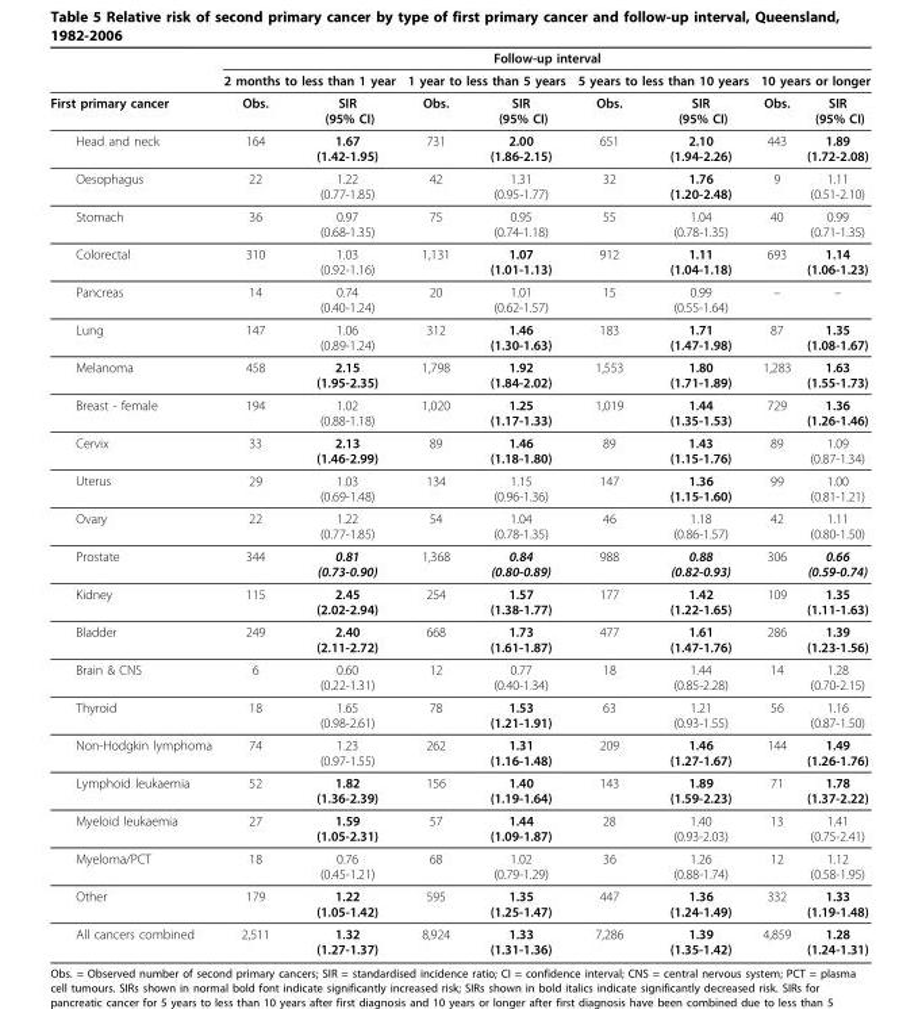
<table><thead><tr><td rowspan="3">First primary cancer</td><td colspan="8">Follow-up interval</td></tr><tr><td colspan="2">2 months to less than 1 year</td><td colspan="2">1 year to less than 5 years</td><td colspan="2">5 years to less than 10 years</td><td colspan="2">10 years or longer</td></tr><tr><td>Obs.</td><td>SIR (95% CI)</td><td>Obs.</td><td>SIR (95% CI)</td><td>Obs.</td><td>SIR (95% CI)</td><td>Obs.</td><td>SIR (95% CI)</td></tr></thead><tbody><tr><td>Head and neck</td><td>164</td><td>1.67 (1.42-1.95)</td><td>731</td><td>2.00 (1.86-2.15)</td><td>651</td><td>2.10 (1.94-2.26)</td><td>443</td><td>1.89 (1.72-2.08)</td></tr><tr><td>Oesophagus</td><td>22</td><td>1.22 (0.77-1.85)</td><td>42</td><td>1.31 (0.95-1.77)</td><td>32</td><td>1.76 (1.20-2.48)</td><td>9</td><td>1.11 (0.51-2.10)</td></tr><tr><td>Stomach</td><td>36</td><td>0.97 (0.68-1.35)</td><td>75</td><td>0.95 (0.74-1.18)</td><td>55</td><td>1.04 (0.78-1.35)</td><td>40</td><td>0.99 (0.71-1.35)</td></tr><tr><td>Colorectal</td><td>310</td><td>1.03 (0.92-1.16)</td><td>1,131</td><td>1.07 (1.01-1.13)</td><td>912</td><td>1.11 (1.04-1.18)</td><td>693</td><td>1.14 (1.06-1.23)</td></tr><tr><td>Pancreas</td><td>14</td><td>0.74 (0.40-1.24)</td><td>20</td><td>1.01 (0.62-1.57)</td><td>15</td><td>0.99 (0.55-1.64)</td><td>–</td><td>–</td></tr><tr><td>Lung</td><td>147</td><td>1.06 (0.89-1.24)</td><td>312</td><td>1.46 (1.30-1.63)</td><td>183</td><td>1.71 (1.47-1.98)</td><td>87</td><td>1.35 (1.08-1.67)</td></tr><tr><td>Melanoma</td><td>458</td><td>2.15 (1.95-2.35)</td><td>1,798</td><td>1.92 (1.84-2.02)</td><td>1,553</td><td>1.80 (1.71-1.89)</td><td>1,283</td><td>1.63 (1.55-1.73)</td></tr><tr><td>Breast - female</td><td>194</td><td>1.02 (0.88-1.18)</td><td>1,020</td><td>1.25 (1.17-1.33)</td><td>1,019</td><td>1.44 (1.35-1.53)</td><td>729</td><td>1.36 (1.26-1.46)</td></tr><tr><td>Cervix</td><td>33</td><td>2.13 (1.46-2.99)</td><td>89</td><td>1.46 (1.18-1.80)</td><td>89</td><td>1.43 (1.15-1.76)</td><td>89</td><td>1.09 (0.87-1.34)</td></tr><tr><td>Uterus</td><td>29</td><td>1.03 (0.69-1.48)</td><td>134</td><td>1.15 (0.96-1.36)</td><td>147</td><td>1.36 (1.15-1.60)</td><td>99</td><td>1.00 (0.81-1.21)</td></tr><tr><td>Ovary</td><td>22</td><td>1.22 (0.77-1.85)</td><td>54</td><td>1.04 (0.78-1.35)</td><td>46</td><td>1.18 (0.86-1.57)</td><td>42</td><td>1.11 (0.80-1.50)</td></tr><tr><td>Prostate</td><td>344</td><td>0.81 (0.73-0.90)</td><td>1,368</td><td>0.84 (0.80-0.89)</td><td>988</td><td>0.88 (0.82-0.93)</td><td>306</td><td>0.66 (0.59-0.74)</td></tr><tr><td>Kidney</td><td>115</td><td>2.45 (2.02-2.94)</td><td>254</td><td>1.57 (1.38-1.77)</td><td>177</td><td>1.42 (1.22-1.65)</td><td>109</td><td>1.35 (1.11-1.63)</td></tr><tr><td>Bladder</td><td>249</td><td>2.40 (2.11-2.72)</td><td>668</td><td>1.73 (1.61-1.87)</td><td>477</td><td>1.61 (1.47-1.76)</td><td>286</td><td>1.39 (1.23-1.56)</td></tr><tr><td>Brain &amp; CNS</td><td>6</td><td>0.60 (0.22-1.31)</td><td>12</td><td>0.77 (0.40-1.34)</td><td>18</td><td>1.44 (0.85-2.28)</td><td>14</td><td>1.28 (0.70-2.15)</td></tr><tr><td>Thyroid</td><td>18</td><td>1.65 (0.98-2.61)</td><td>78</td><td>1.53 (1.21-1.91)</td><td>63</td><td>1.21 (0.93-1.55)</td><td>56</td><td>1.16 (0.87-1.50)</td></tr><tr><td>Non-Hodgkin lymphoma</td><td>74</td><td>1.23 (0.97-1.55)</td><td>262</td><td>1.31 (1.16-1.48)</td><td>209</td><td>1.46 (1.27-1.67)</td><td>144</td><td>1.49 (1.26-1.76)</td></tr><tr><td>Lymphoid leukaemia</td><td>52</td><td>1.82 (1.36-2.39)</td><td>156</td><td>1.40 (1.19-1.64)</td><td>143</td><td>1.89 (1.59-2.23)</td><td>71</td><td>1.78 (1.37-2.22)</td></tr><tr><td>Myeloid leukaemia</td><td>27</td><td>1.59 (1.05-2.31)</td><td>57</td><td>1.44 (1.09-1.87)</td><td>28</td><td>1.40 (0.93-2.03)</td><td>13</td><td>1.41 (0.75-2.41)</td></tr><tr><td>Myeloma/PCT</td><td>18</td><td>0.76 (0.45-1.21)</td><td>68</td><td>1.02 (0.79-1.29)</td><td>36</td><td>1.26 (0.88-1.74)</td><td>12</td><td>1.12 (0.58-1.95)</td></tr><tr><td>Other</td><td>179</td><td>1.22 (1.05-1.42)</td><td>595</td><td>1.35 (1.25-1.47)</td><td>447</td><td>1.36 (1.24-1.49)</td><td>332</td><td>1.33 (1.19-1.48)</td></tr><tr><td>All cancers combined</td><td>2,511</td><td>1.32 (1.27-1.37)</td><td>8,924</td><td>1.33 (1.31-1.36)</td><td>7,286</td><td>1.39 (1.35-1.42)</td><td>4,859</td><td>1.28 (1.24-1.31)</td></tr></tbody></table>